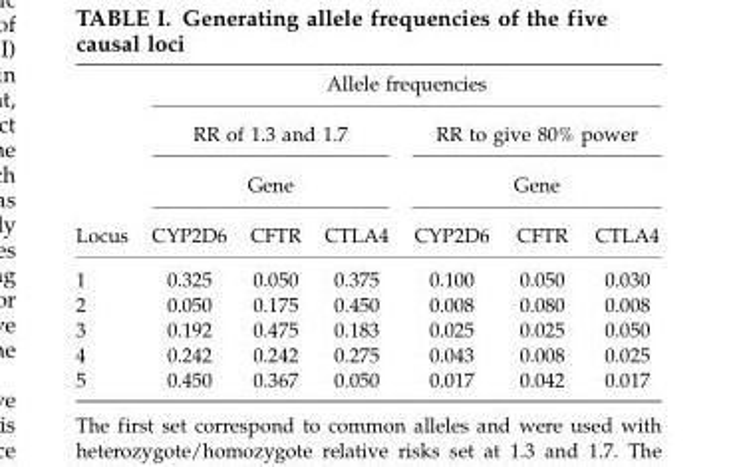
<table><thead><tr><td rowspan="4">Locus</td><td colspan="6">Allele frequencies</td></tr><tr><td rowspan="2" colspan="3">RR of 1.3 and 1.7 Gene</td><td rowspan="2" colspan="3">RR to give 80% power Gene</td></tr><tr></tr><tr><td>CYP2D6</td><td>CFTR</td><td>CTLA4</td><td>CYP2D6</td><td>CFTR</td><td>CTLA4</td></tr></thead><tbody><tr><td>1</td><td>0.325</td><td>0.050</td><td>0.375</td><td>0.100</td><td>0.050</td><td>0.030</td></tr><tr><td>2</td><td>0.050</td><td>0.175</td><td>0.450</td><td>0.008</td><td>0.080</td><td>0.008</td></tr><tr><td>3</td><td>0.192</td><td>0.475</td><td>0.183</td><td>0.025</td><td>0.025</td><td>0.050</td></tr><tr><td>4</td><td>0.242</td><td>0.242</td><td>0.275</td><td>0.043</td><td>0.008</td><td>0.025</td></tr><tr><td>5</td><td>0.450</td><td>0.367</td><td>0.050</td><td>0.017</td><td>0.042</td><td>0.017</td></tr></tbody></table>